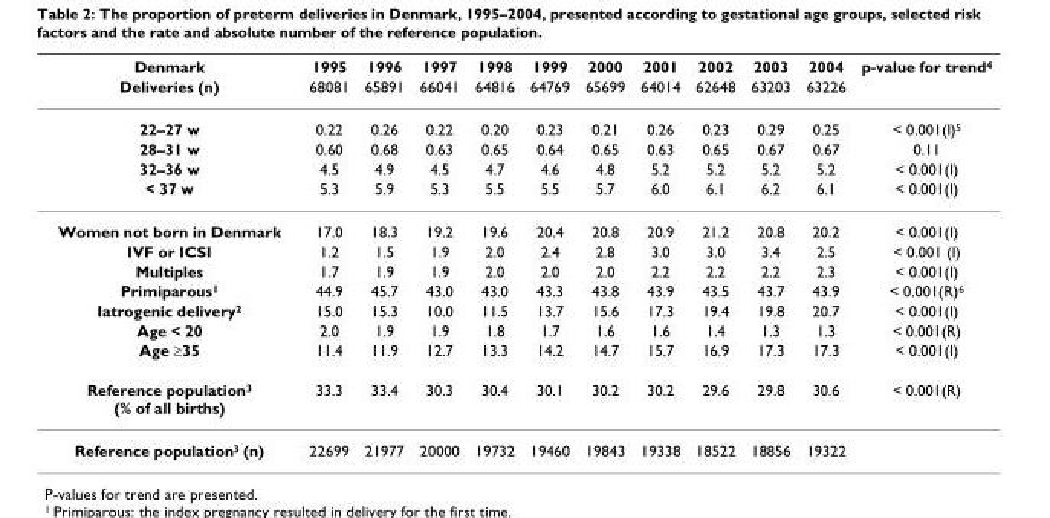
<table><thead><tr><td rowspan="2">Denmark Deliveries (n)</td><td rowspan="2">1995 68081</td><td rowspan="2">1996 65891</td><td rowspan="2">1997 66041</td><td rowspan="2">1998 64816</td><td rowspan="2">1999 64769</td><td rowspan="2">2000 65699</td><td rowspan="2">2001 64014</td><td rowspan="2">2002 62648</td><td rowspan="2">2003 63203</td><td rowspan="2">2004 63226</td><td rowspan="2">p-value for trend4</td></tr><tr></tr></thead><tbody><tr><td>22–27 w</td><td>0.22</td><td>0.26</td><td>0.22</td><td>0.20</td><td>0.23</td><td>0.21</td><td>0.26</td><td>0.23</td><td>0.29</td><td>0.25</td><td>&lt; 0.001(I)5</td></tr><tr><td>28–31 w</td><td>0.60</td><td>0.68</td><td>0.63</td><td>0.65</td><td>0.64</td><td>0.65</td><td>0.63</td><td>0.65</td><td>0.67</td><td>0.67</td><td>0.11</td></tr><tr><td>32–36 w</td><td>4.5</td><td>4.9</td><td>4.5</td><td>4.7</td><td>4.6</td><td>4.8</td><td>5.2</td><td>5.2</td><td>5.2</td><td>5.2</td><td>&lt; 0.001(I)</td></tr><tr><td>&lt; 37 w</td><td>5.3</td><td>5.9</td><td>5.3</td><td>5.5</td><td>5.5</td><td>5.7</td><td>6.0</td><td>6.1</td><td>6.2</td><td>6.1</td><td>&lt; 0.001(I)</td></tr><tr><td>Women not born in Denmark</td><td>17.0</td><td>18.3</td><td>19.2</td><td>19.6</td><td>20.4</td><td>20.8</td><td>20.9</td><td>21.2</td><td>20.8</td><td>20.2</td><td>&lt; 0.001(I)</td></tr><tr><td>IVF or ICSI</td><td>1.2</td><td>1.5</td><td>1.9</td><td>2.0</td><td>2.4</td><td>2.8</td><td>3.0</td><td>3.0</td><td>3.4</td><td>2.5</td><td>&lt; 0.001 (I)</td></tr><tr><td>Multiples</td><td>1.7</td><td>1.9</td><td>1.9</td><td>2.0</td><td>2.0</td><td>2.0</td><td>2.2</td><td>2.2</td><td>2.2</td><td>2.3</td><td>&lt; 0.001(I)</td></tr><tr><td>Primiparous<sup>1</sup></td><td>44.9</td><td>45.7</td><td>43.0</td><td>43.0</td><td>43.3</td><td>43.8</td><td>43.9</td><td>43.5</td><td>43.7</td><td>43.9</td><td>&lt; 0.001(R)<sup>6</sup></td></tr><tr><td>Iatrogenic delivery<sup>2</sup></td><td>15.0</td><td>15.3</td><td>10.0</td><td>11.5</td><td>13.7</td><td>15.6</td><td>17.3</td><td>19.4</td><td>19.8</td><td>20.7</td><td>&lt; 0.001(I)</td></tr><tr><td>Age &lt; 20</td><td>2.0</td><td>1.9</td><td>1.9</td><td>1.8</td><td>1.7</td><td>1.6</td><td>1.6</td><td>1.4</td><td>1.3</td><td>1.3</td><td>&lt; 0.001(R)</td></tr><tr><td>Age ≥35</td><td>11.4</td><td>11.9</td><td>12.7</td><td>13.3</td><td>14.2</td><td>14.7</td><td>15.7</td><td>16.9</td><td>17.3</td><td>17.3</td><td>&lt; 0.001(I)</td></tr><tr><td>Reference population<sup>3</sup> (% of all births)</td><td>33.3</td><td>33.4</td><td>30.3</td><td>30.4</td><td>30.1</td><td>30.2</td><td>30.2</td><td>29.6</td><td>29.8</td><td>30.6</td><td>&lt; 0.001(R)</td></tr><tr><td>Reference population<sup>3</sup> (n)</td><td>22699</td><td>21977</td><td>20000</td><td>19732</td><td>19460</td><td>19843</td><td>19338</td><td>18522</td><td>18856</td><td>19322</td><td></td></tr></tbody></table>